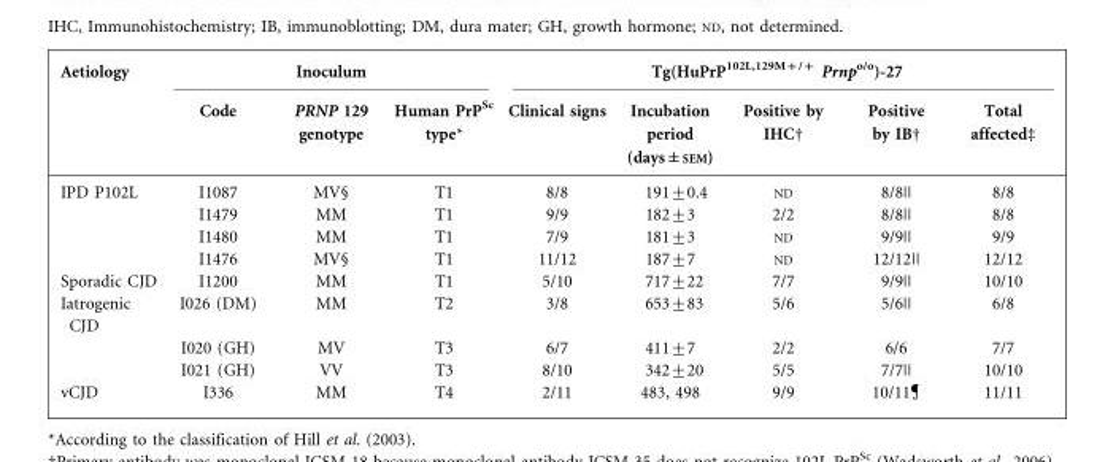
<table><thead><tr><td rowspan="2">Aetiology</td><td colspan="3">Inoculum</td><td colspan="5">Tg(HuPrP<sup>102L,129M+/+</sup> Prnp<sup>o/o</sup>)-27</td></tr><tr><td>Code</td><td>PRNP 129 genotype</td><td>Human PrP<sup>Sc</sup> type*</td><td>Clinical signs</td><td>Incubation period (days±SEM)</td><td>Positive by IHC†</td><td>Positive by IB†</td><td>Total affected‡</td></tr></thead><tbody><tr><td rowspan="4">IPD P102L</td><td>I1087</td><td>MV§</td><td>T1</td><td>8/8</td><td>191±0.4</td><td>ND</td><td>8/8||</td><td>8/8</td></tr><tr><td>I1479</td><td>MM</td><td>T1</td><td>9/9</td><td>182±3</td><td>2/2</td><td>8/8||</td><td>8/8</td></tr><tr><td>I1480</td><td>MM</td><td>T1</td><td>7/9</td><td>181±3</td><td>ND</td><td>9/9||</td><td>9/9</td></tr><tr><td>I1476</td><td>MV§</td><td>T1</td><td>11/12</td><td>187±7</td><td>ND</td><td>12/12||</td><td>12/12</td></tr><tr><td>Sporadic CJD</td><td>I1200</td><td>MM</td><td>T1</td><td>5/10</td><td>717±22</td><td>7/7</td><td>9/9||</td><td>10/10</td></tr><tr><td rowspan="3">Iatrogenic CJD</td><td>I026 (DM)</td><td>MM</td><td>T2</td><td>3/8</td><td>653±83</td><td>5/6</td><td>5/6||</td><td>6/8</td></tr><tr><td>I020 (GH)</td><td>MV</td><td>T3</td><td>6/7</td><td>411±7</td><td>2/2</td><td>6/6</td><td>7/7</td></tr><tr><td>I021 (GH)</td><td>VV</td><td>T3</td><td>8/10</td><td>342±20</td><td>5/5</td><td>7/7||</td><td>10/10</td></tr><tr><td>vCJD</td><td>I336</td><td>MM</td><td>T4</td><td>2/11</td><td>483, 498</td><td>9/9</td><td>10/11</td><td>11/11</td></tr></tbody></table>